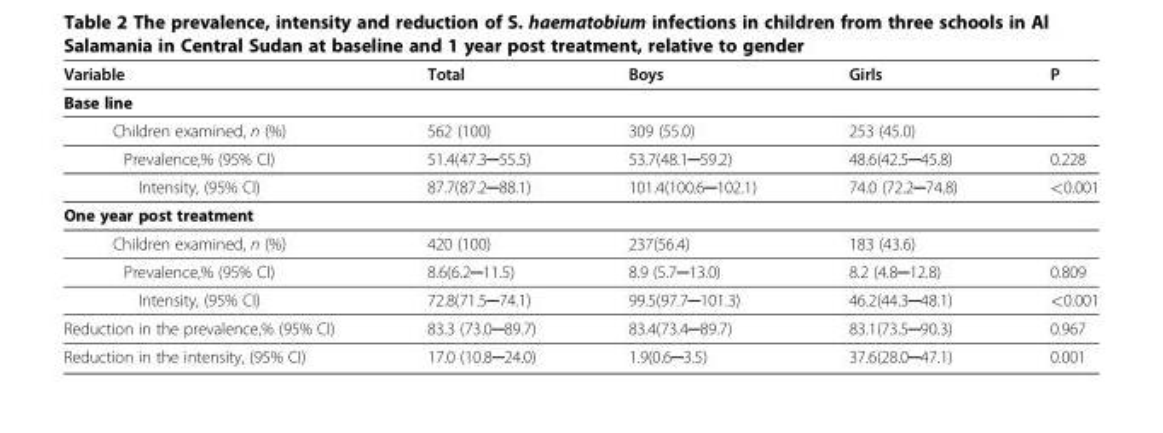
<table><thead><tr><td>Variable</td><td>Total</td><td>Boys</td><td>Girls</td><td>P</td></tr></thead><tbody><tr><td colspan="5">Base line</td></tr><tr><td>Children examined, n (%)</td><td>562 (100)</td><td>309 (55.0)</td><td>253 (45.0)</td><td></td></tr><tr><td>Prevalence,% (95% CI)</td><td>51.4(47.3─55.5)</td><td>53.7(48.1─59.2)</td><td>48.6(42.5─45.8)</td><td>0.228</td></tr><tr><td>Intensity, (95% CI)</td><td>87.7(87.2─88.1)</td><td>101.4(100.6─102.1)</td><td>74.0 (72.2─74.8)</td><td>&lt;0.001</td></tr><tr><td colspan="5">One year post treatment</td></tr><tr><td>Children examined, n (%)</td><td>420 (100)</td><td>237(56.4)</td><td>183 (43.6)</td><td></td></tr><tr><td>Prevalence,% (95% CI)</td><td>8.6(6.2─11.5)</td><td>8.9 (5.7─13.0)</td><td>8.2 (4.8─12.8)</td><td>0.809</td></tr><tr><td>Intensity, (95% CI)</td><td>72.8(71.5─74.1)</td><td>99.5(97.7─101.3)</td><td>46.2(44.3─48.1)</td><td>&lt;0.001</td></tr><tr><td>Reduction in the prevalence,% (95% CI)</td><td>83.3 (73.0─89.7)</td><td>83.4(73.4─89.7)</td><td>83.1(73.5─90.3)</td><td>0.967</td></tr><tr><td>Reduction in the intensity, (95% CI)</td><td>17.0 (10.8─24.0)</td><td>1.9(0.6─3.5)</td><td>37.6(28.0─47.1)</td><td>0.001</td></tr></tbody></table>